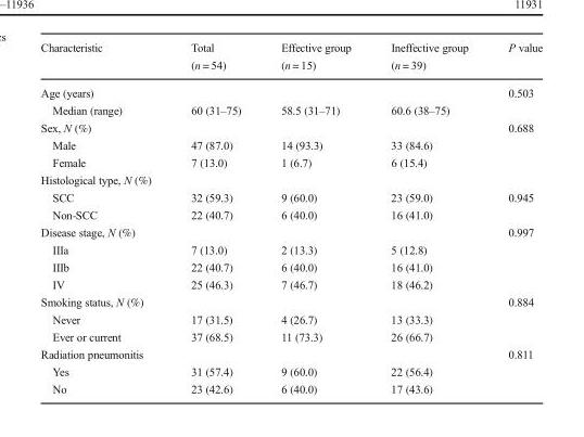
<table><thead><tr><td>Characteristic</td><td>Total (n = 54)</td><td>Effective group (n = 15)</td><td>Ineffective group (n = 39)</td><td>P value</td></tr></thead><tbody><tr><td>Age (years)</td><td></td><td></td><td></td><td>0.503</td></tr><tr><td>Median (range)</td><td>60 (31–75)</td><td>58.5 (31–71)</td><td>60.6 (38–75)</td><td></td></tr><tr><td>Sex, N (%)</td><td></td><td></td><td></td><td>0.688</td></tr><tr><td>Male</td><td>47 (87.0)</td><td>14 (93.3)</td><td>33 (84.6)</td><td></td></tr><tr><td>Female</td><td>7 (13.0)</td><td>1 (6.7)</td><td>6 (15.4)</td><td></td></tr><tr><td colspan="5">Histological type, N (%)</td></tr><tr><td>SCC</td><td>32 (59.3)</td><td>9 (60.0)</td><td>23 (59.0)</td><td>0.945</td></tr><tr><td>Non-SCC</td><td>22 (40.7)</td><td>6 (40.0)</td><td>16 (41.0)</td><td></td></tr><tr><td>Disease stage, N (%)</td><td></td><td></td><td></td><td>0.997</td></tr><tr><td>IIIa</td><td>7 (13.0)</td><td>2 (13.3)</td><td>5 (12.8)</td><td></td></tr><tr><td>IIIb</td><td>22 (40.7)</td><td>6 (40.0)</td><td>16 (41.0)</td><td></td></tr><tr><td>IV</td><td>25 (46.3)</td><td>7 (46.7)</td><td>18 (46.2)</td><td></td></tr><tr><td>Smoking status, N (%)</td><td></td><td></td><td></td><td>0.884</td></tr><tr><td>Never</td><td>17 (31.5)</td><td>4 (26.7)</td><td>13 (33.3)</td><td></td></tr><tr><td>Ever or current</td><td>37 (68.5)</td><td>11 (73.3)</td><td>26 (66.7)</td><td></td></tr><tr><td>Radiation pneumonitis</td><td></td><td></td><td></td><td>0.811</td></tr><tr><td>Yes</td><td>31 (57.4)</td><td>9 (60.0)</td><td>22 (56.4)</td><td></td></tr><tr><td>No</td><td>23 (42.6)</td><td>6 (40.0)</td><td>17 (43.6)</td><td></td></tr></tbody></table>